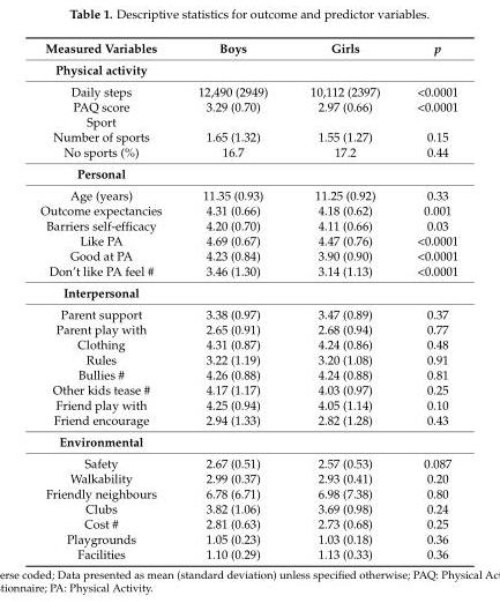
<table><thead><tr><td>Measured Variables</td><td>Boys</td><td>Girls</td><td>p</td></tr></thead><tbody><tr><td colspan="4">Physical activity</td></tr><tr><td>Daily steps</td><td>12,490 (2949)</td><td>10,112 (2397)</td><td>&lt;0.0001</td></tr><tr><td>PAQ score</td><td>3.29 (0.70)</td><td>2.97 (0.66)</td><td>&lt;0.0001</td></tr><tr><td colspan="4">Sport</td></tr><tr><td>Number of sports</td><td>1.65 (1.32)</td><td>1.55 (1.27)</td><td>0.15</td></tr><tr><td>No sports (%)</td><td>16.7</td><td>17.2</td><td>0.44</td></tr><tr><td colspan="4">Personal</td></tr><tr><td>Age (years)</td><td>11.35 (0.93)</td><td>11.25 (0.92)</td><td>0.33</td></tr><tr><td>Outcome expectancies</td><td>4.31 (0.66)</td><td>4.18 (0.62)</td><td>0.001</td></tr><tr><td>Barriers self-efficacy</td><td>4.20 (0.70)</td><td>4.11 (0.66)</td><td>0.03</td></tr><tr><td>Like PA</td><td>4.69 (0.67)</td><td>4.47 (0.76)</td><td>&lt;0.0001</td></tr><tr><td>Good at PA</td><td>4.23 (0.84)</td><td>3.90 (0.90)</td><td>&lt;0.0001</td></tr><tr><td>Don’t like PA feel #</td><td>3.46 (1.30)</td><td>3.14 (1.13)</td><td>&lt;0.0001</td></tr><tr><td colspan="4">Interpersonal</td></tr><tr><td>Parent support</td><td>3.38 (0.97)</td><td>3.47 (0.89)</td><td>0.37</td></tr><tr><td>Parent play with</td><td>2.65 (0.91)</td><td>2.68 (0.94)</td><td>0.77</td></tr><tr><td>Clothing</td><td>4.31 (0.87)</td><td>4.24 (0.86)</td><td>0.48</td></tr><tr><td>Rules</td><td>3.22 (1.19)</td><td>3.20 (1.08)</td><td>0.91</td></tr><tr><td>Bullies #</td><td>4.26 (0.88)</td><td>4.24 (0.88)</td><td>0.81</td></tr><tr><td>Other kids tease #</td><td>4.17 (1.17)</td><td>4.03 (0.97)</td><td>0.25</td></tr><tr><td>Friend play with</td><td>4.25 (0.94)</td><td>4.05 (1.14)</td><td>0.10</td></tr><tr><td>Friend encourage</td><td>2.94 (1.33)</td><td>2.82 (1.28)</td><td>0.43</td></tr><tr><td colspan="4">Environmental</td></tr><tr><td>Safety</td><td>2.67 (0.51)</td><td>2.57 (0.53)</td><td>0.087</td></tr><tr><td>Walkability</td><td>2.99 (0.37)</td><td>2.93 (0.41)</td><td>0.20</td></tr><tr><td>Friendly neighbours</td><td>6.78 (6.71)</td><td>6.98 (7.38)</td><td>0.80</td></tr><tr><td>Clubs</td><td>3.82 (1.06)</td><td>3.69 (0.98)</td><td>0.24</td></tr><tr><td>Cost #</td><td>2.81 (0.63)</td><td>2.73 (0.68)</td><td>0.25</td></tr><tr><td>Playgrounds</td><td>1.05 (0.23)</td><td>1.03 (0.18)</td><td>0.36</td></tr><tr><td>Facilities</td><td>1.10 (0.29)</td><td>1.13 (0.33)</td><td>0.36</td></tr></tbody></table>